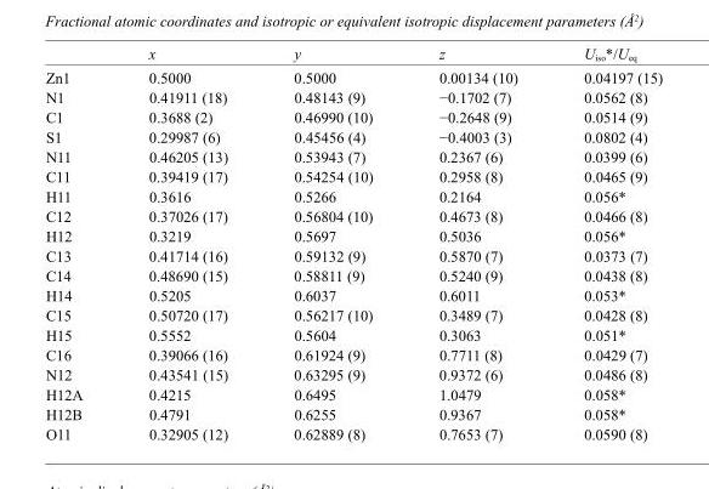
<table><thead><tr><td></td><td>x</td><td>y</td><td>z</td><td>U<sub>iso</sub>*/U<sub>eq</sub></td></tr></thead><tbody><tr><td>Zn1</td><td>0.5000</td><td>0.5000</td><td>0.00134 (10)</td><td>0.04197 (15)</td></tr><tr><td>N1</td><td>0.41911 (18)</td><td>0.48143 (9)</td><td>−0.1702 (7)</td><td>0.0562 (8)</td></tr><tr><td>C1</td><td>0.3688 (2)</td><td>0.46990 (10)</td><td>−0.2648 (9)</td><td>0.0514 (9)</td></tr><tr><td>S1</td><td>0.29987 (6)</td><td>0.45456 (4)</td><td>−0.4003 (3)</td><td>0.0802 (4)</td></tr><tr><td>N11</td><td>0.46205 (13)</td><td>0.53943 (7)</td><td>0.2367 (6)</td><td>0.0399 (6)</td></tr><tr><td>C11</td><td>0.39419 (17)</td><td>0.54254 (10)</td><td>0.2958 (8)</td><td>0.0465 (9)</td></tr><tr><td>H11</td><td>0.3616</td><td>0.5266</td><td>0.2164</td><td>0.056*</td></tr><tr><td>C12</td><td>0.37026 (17)</td><td>0.56804 (10)</td><td>0.4673 (8)</td><td>0.0466 (8)</td></tr><tr><td>H12</td><td>0.3219</td><td>0.5697</td><td>0.5036</td><td>0.056*</td></tr><tr><td>C13</td><td>0.41714 (16)</td><td>0.59132 (9)</td><td>0.5870 (7)</td><td>0.0373 (7)</td></tr><tr><td>C14</td><td>0.48690 (15)</td><td>0.58811 (9)</td><td>0.5240 (9)</td><td>0.0438 (8)</td></tr><tr><td>H14</td><td>0.5205</td><td>0.6037</td><td>0.6011</td><td>0.053*</td></tr><tr><td>C15</td><td>0.50720 (17)</td><td>0.56217 (10)</td><td>0.3489 (7)</td><td>0.0428 (8)</td></tr><tr><td>H15</td><td>0.5552</td><td>0.5604</td><td>0.3063</td><td>0.051*</td></tr><tr><td>C16</td><td>0.39066 (16)</td><td>0.61924 (9)</td><td>0.7711 (8)</td><td>0.0429 (7)</td></tr><tr><td>N12</td><td>0.43541 (15)</td><td>0.63295 (9)</td><td>0.9372 (6)</td><td>0.0486 (8)</td></tr><tr><td>H12A</td><td>0.4215</td><td>0.6495</td><td>1.0479</td><td>0.058*</td></tr><tr><td>H12B</td><td>0.4791</td><td>0.6255</td><td>0.9367</td><td>0.058*</td></tr><tr><td>O11</td><td>0.32905 (12)</td><td>0.62889 (8)</td><td>0.7653 (7)</td><td>0.0590 (8)</td></tr></tbody></table>